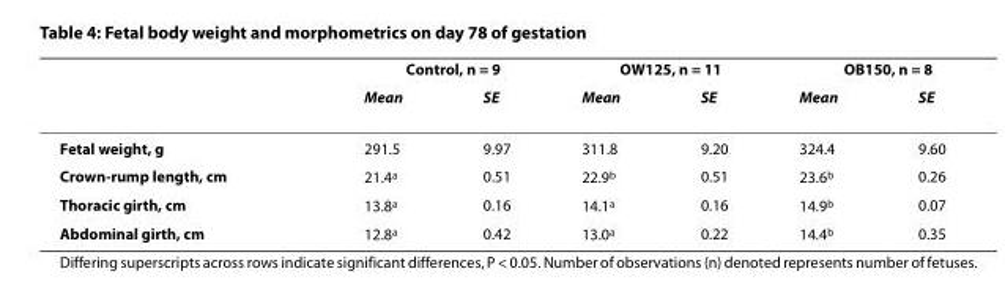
<table><thead><tr><td rowspan="2"></td><td colspan="2">Control, n = 9</td><td colspan="2">OW125, n = 11</td><td colspan="2">OB150, n = 8</td></tr><tr><td>Mean</td><td>SE</td><td>Mean</td><td>SE</td><td>Mean</td><td>SE</td></tr></thead><tbody><tr><td>Fetal weight, g</td><td>291.5</td><td>9.97</td><td>311.8</td><td>9.20</td><td>324.4</td><td>9.60</td></tr><tr><td>Crown-rump length, cm</td><td>21.4<sup>a</sup></td><td>0.51</td><td>22.9<sup>b</sup></td><td>0.51</td><td>23.6<sup>b</sup></td><td>0.26</td></tr><tr><td>Thoracic girth, cm</td><td>13.8<sup>a</sup></td><td>0.16</td><td>14.1<sup>a</sup></td><td>0.16</td><td>14.9<sup>b</sup></td><td>0.07</td></tr><tr><td>Abdominal girth, cm</td><td>12.8<sup>a</sup></td><td>0.42</td><td>13.0<sup>a</sup></td><td>0.22</td><td>14.4<sup>b</sup></td><td>0.35</td></tr></tbody></table>